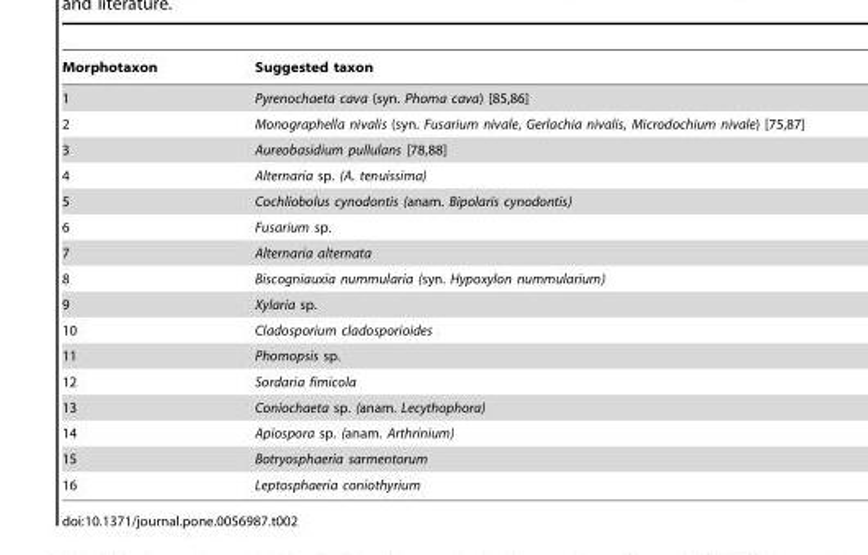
<table><thead><tr><td>Morphotaxon</td><td>Suggested taxon</td></tr></thead><tbody><tr><td>1</td><td>Pyrenochaeta cava (syn. Phoma cava) [85,86]</td></tr><tr><td>2</td><td>Monographella nivalis (syn. Fusarium nivale, Gerlachia nivalis, Microdochium nivale) [75,87]</td></tr><tr><td>3</td><td>Aureobasidium pullulans [78,88]</td></tr><tr><td>4</td><td>Alternaria sp. (A. tenuissima)</td></tr><tr><td>5</td><td>Cochliobolus cynodontis (anam. Bipolaris cynodontis)</td></tr><tr><td>6</td><td>Fusarium sp.</td></tr><tr><td>7</td><td>Alternaria alternata</td></tr><tr><td>8</td><td>Biscogniauxia nummularia (syn. Hypoxylon nummularium)</td></tr><tr><td>9</td><td>Xylaria sp.</td></tr><tr><td>10</td><td>Cladosporium cladosporioides</td></tr><tr><td>11</td><td>Phomopsis sp.</td></tr><tr><td>12</td><td>Sordaria fimicola</td></tr><tr><td>13</td><td>Coniochaeta sp. (anam. Lecythophora)</td></tr><tr><td>14</td><td>Apiospora sp. (anam. Arthrinium)</td></tr><tr><td>15</td><td>Botryosphaeria sarmentorum</td></tr><tr><td>16</td><td>Leptosphaeria coniothyrium</td></tr></tbody></table>